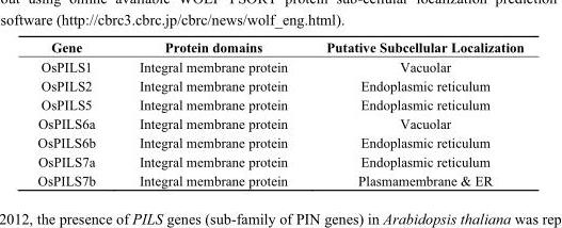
<table><thead><tr><td>Gene</td><td>Protein domains</td><td>Putative Subcellular Localization</td></tr></thead><tbody><tr><td>OsPILS1</td><td>Integral membrane protein</td><td>Vacuolar</td></tr><tr><td>OsPILS2</td><td>Integral membrane protein</td><td>Endoplasmic reticulum</td></tr><tr><td>OsPILS5</td><td>Integral membrane protein</td><td>Endoplasmic reticulum</td></tr><tr><td>OsPILS6a</td><td>Integral membrane protein</td><td>Vacuolar</td></tr><tr><td>OsPILS6b</td><td>Integral membrane protein</td><td>Endoplasmic reticulum</td></tr><tr><td>OsPILS7a</td><td>Integral membrane protein</td><td>Endoplasmic reticulum</td></tr><tr><td>OsPILS7b</td><td>Integral membrane protein</td><td>Plasmamembrane &amp; ER</td></tr></tbody></table>